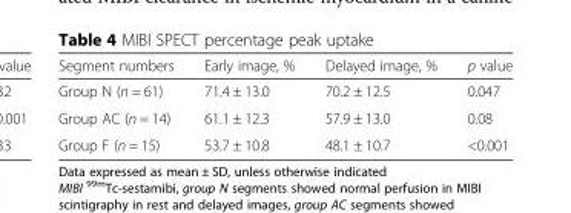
<table><thead><tr><td>Segment numbers</td><td>Early image, %</td><td>Delayed image, %</td><td>p value</td></tr></thead><tbody><tr><td>Group N (n = 61)</td><td>71.4 ± 13.0</td><td>70.2 ± 12.5</td><td>0.047</td></tr><tr><td>Group AC (n = 14)</td><td>61.1 ± 12.3</td><td>57.9 ± 13.0</td><td>0.08</td></tr><tr><td>Group F (n = 15)</td><td>53.7 ± 10.8</td><td>48.1 ± 10.7</td><td>&lt;0.001</td></tr></tbody></table>